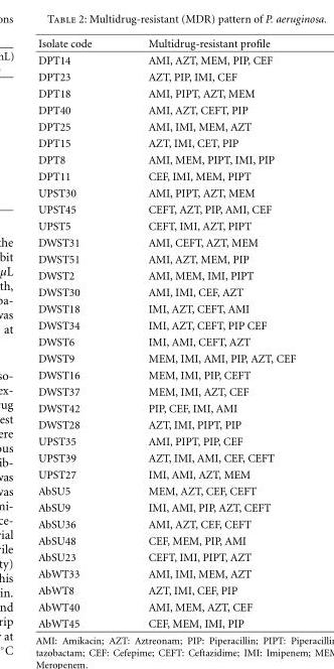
<table><thead><tr><td>Isolate code</td><td>Multidrug-resistant profile</td></tr></thead><tbody><tr><td>DPT14</td><td>AMI, AZT, MEM, PIP, CEF</td></tr><tr><td>DPT23</td><td>AZT, PIP, IMI, CEF</td></tr><tr><td>DPT18</td><td>AMI, PIPT, AZT, MEM</td></tr><tr><td>DPT40</td><td>AMI, AZT, CEFT, PIP</td></tr><tr><td>DPT25</td><td>AMI, IMI, MEM, AZT</td></tr><tr><td>DPT15</td><td>AZT, IMI, CET, PIP</td></tr><tr><td>DPT8</td><td>AMI, MEM, PIPT, IMI, PIP</td></tr><tr><td>DPT11</td><td>CEF, IMI, MEM, PIPT</td></tr><tr><td>UPST30</td><td>AMI, PIPT, AZT, MEM</td></tr><tr><td>UPST45</td><td>CEFT, AZT, PIP, AMI, CEF</td></tr><tr><td>UPST5</td><td>CEFT, IMI, AZT, PIPT</td></tr><tr><td>DWST31</td><td>AMI, CEFT, AZT, MEM</td></tr><tr><td>DWST51</td><td>AMI, AZT, MEM, PIP</td></tr><tr><td>DWST2</td><td>AMI, MEM, IMI, PIPT</td></tr><tr><td>DWST30</td><td>AMI, IMI, CEF, AZT</td></tr><tr><td>DWST18</td><td>IMI, AZT, CEFT, AMI</td></tr><tr><td>DWST34</td><td>IMI, AZT, CEFT, PIP CEF</td></tr><tr><td>DWST6</td><td>IMI, AMI, CEFT, AZT</td></tr><tr><td>DWST9</td><td>MEM, IMI, AMI, PIP, AZT, CEF</td></tr><tr><td>DWST16</td><td>MEM, IMI, PIP, CEFT</td></tr><tr><td>DWST37</td><td>MEM, IMI, AZT, CEF</td></tr><tr><td>DWST42</td><td>PIP, CEF, IMI, AMI</td></tr><tr><td>DWST28</td><td>AZT, IMI, PIPT, PIP</td></tr><tr><td>UPST35</td><td>AMI, PIPT, PIP, CEF</td></tr><tr><td>UPST39</td><td>AZT, IMI, AMI, CEF, CEFT</td></tr><tr><td>UPST27</td><td>IMI, AMI, AZT, MEM</td></tr><tr><td>AbSU5</td><td>MEM, AZT, CEF, CEFT</td></tr><tr><td>AbSU9</td><td>IMI, AMI, PIP, AZT, CEFT</td></tr><tr><td>AbSU36</td><td>AMI, AZT, CEF, CEFT</td></tr><tr><td>AbSU48</td><td>CEF, MEM, PIP, AMI</td></tr><tr><td>AbSU23</td><td>CEFT, IMI, PIPT, AZT</td></tr><tr><td>AbWT33</td><td>AMI, IMI, MEM, AZT</td></tr><tr><td>AbWT8</td><td>AZT, IMI, CEF, PIP</td></tr><tr><td>AbWT40</td><td>AMI, MEM, AZT, CEF</td></tr><tr><td>AbWT45</td><td>CEF, MEM, IMI, PIP</td></tr></tbody></table>